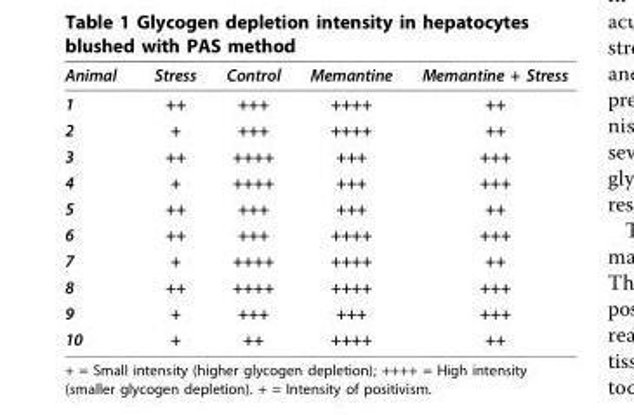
<table><thead><tr><td>Animal</td><td>Stress</td><td>Control</td><td>Memantine</td><td>Memantine + Stress</td></tr></thead><tbody><tr><td>1</td><td>++</td><td>+++</td><td>++++</td><td>++</td></tr><tr><td>2</td><td>+</td><td>+++</td><td>++++</td><td>++</td></tr><tr><td>3</td><td>++</td><td>++++</td><td>+++</td><td>+++</td></tr><tr><td>4</td><td>+</td><td>++++</td><td>+++</td><td>+++</td></tr><tr><td>5</td><td>++</td><td>+++</td><td>+++</td><td>++</td></tr><tr><td>6</td><td>++</td><td>+++</td><td>++++</td><td>+++</td></tr><tr><td>7</td><td>+</td><td>++++</td><td>++++</td><td>++</td></tr><tr><td>8</td><td>++</td><td>++++</td><td>++++</td><td>+++</td></tr><tr><td>9</td><td>+</td><td>+++</td><td>+++</td><td>+++</td></tr><tr><td>10</td><td>+</td><td>++</td><td>++++</td><td>++</td></tr></tbody></table>